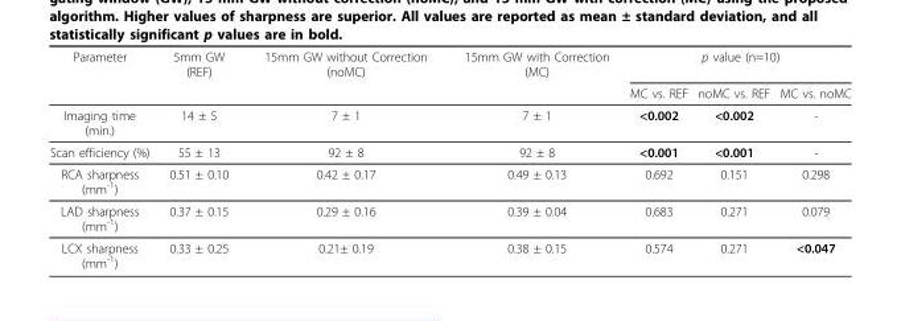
<table><thead><tr><td rowspan="2">Parameter</td><td rowspan="2">5mm GW (REF)</td><td rowspan="2">15mm GW without Correction (noMC)</td><td rowspan="2">15mm GW with Correction (MC)</td><td colspan="3">p value (n=10)</td></tr><tr><td>MC vs. REF</td><td>noMC vs. REF</td><td>MC vs. noMC</td></tr></thead><tbody><tr><td>Imaging time (min.)</td><td>14 ± 5</td><td>7 ± 1</td><td>7 ± 1</td><td>&lt;0.002</td><td>&lt;0.002</td><td>-</td></tr><tr><td>Scan efficiency (%)</td><td>55 ± 13</td><td>92 ± 8</td><td>92 ± 8</td><td>&lt;0.001</td><td>&lt;0.001</td><td>-</td></tr><tr><td>RCA sharpness (mm<sup>-1</sup>)</td><td>0.51 ± 0.10</td><td>0.42 ± 0.17</td><td>0.49 ± 0.13</td><td>0.692</td><td>0.151</td><td>0.298</td></tr><tr><td>LAD sharpness (mm<sup>-1</sup>)</td><td>0.37 ± 0.15</td><td>0.29 ± 0.16</td><td>0.39 ± 0.04</td><td>0.683</td><td>0.271</td><td>0.079</td></tr><tr><td>LCX sharpness (mm<sup>-1</sup>)</td><td>0.33 ± 0.25</td><td>0.21± 0.19</td><td>0.38 ± 0.15</td><td>0.574</td><td>0.271</td><td>&lt;0.047</td></tr></tbody></table>